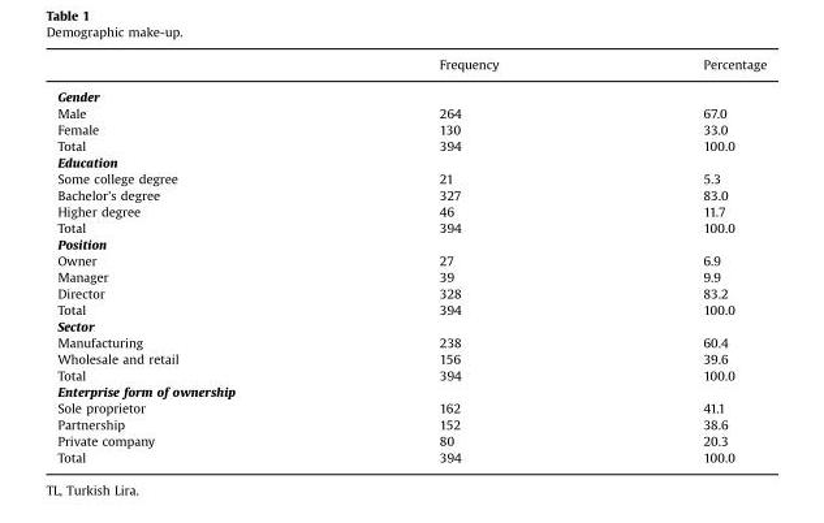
<table><thead><tr><td></td><td>Frequency</td><td>Percentage</td></tr></thead><tbody><tr><td colspan="3">Gender</td></tr><tr><td>Male</td><td>264</td><td>67.0</td></tr><tr><td>Female</td><td>130</td><td>33.0</td></tr><tr><td>Total</td><td>394</td><td>100.0</td></tr><tr><td colspan="3">Education</td></tr><tr><td>Some college degree</td><td>21</td><td>5.3</td></tr><tr><td>Bachelor&#x27;s degree</td><td>327</td><td>83.0</td></tr><tr><td>Higher degree</td><td>46</td><td>11.7</td></tr><tr><td>Total</td><td>394</td><td>100.0</td></tr><tr><td colspan="3">Position</td></tr><tr><td>Owner</td><td>27</td><td>6.9</td></tr><tr><td>Manager</td><td>39</td><td>9.9</td></tr><tr><td>Director</td><td>328</td><td>83.2</td></tr><tr><td>Total</td><td>394</td><td>100.0</td></tr><tr><td colspan="3">Sector</td></tr><tr><td>Manufacturing</td><td>238</td><td>60.4</td></tr><tr><td>Wholesale and retail</td><td>156</td><td>39.6</td></tr><tr><td>Total</td><td>394</td><td>100.0</td></tr><tr><td colspan="3">Enterprise form of ownership</td></tr><tr><td>Sole proprietor</td><td>162</td><td>41.1</td></tr><tr><td>Partnership</td><td>152</td><td>38.6</td></tr><tr><td>Private company</td><td>80</td><td>20.3</td></tr><tr><td>Total</td><td>394</td><td>100.0</td></tr></tbody></table>